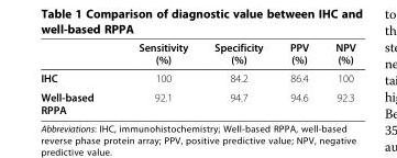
<table><thead><tr><td></td><td>Sensitivity (%)</td><td>Specificity (%)</td><td>PPV (%)</td><td>NPV (%)</td></tr></thead><tbody><tr><td>IHC</td><td>100</td><td>84.2</td><td>86.4</td><td>100</td></tr><tr><td>Well-based RPPA</td><td>92.1</td><td>94.7</td><td>94.6</td><td>92.3</td></tr></tbody></table>